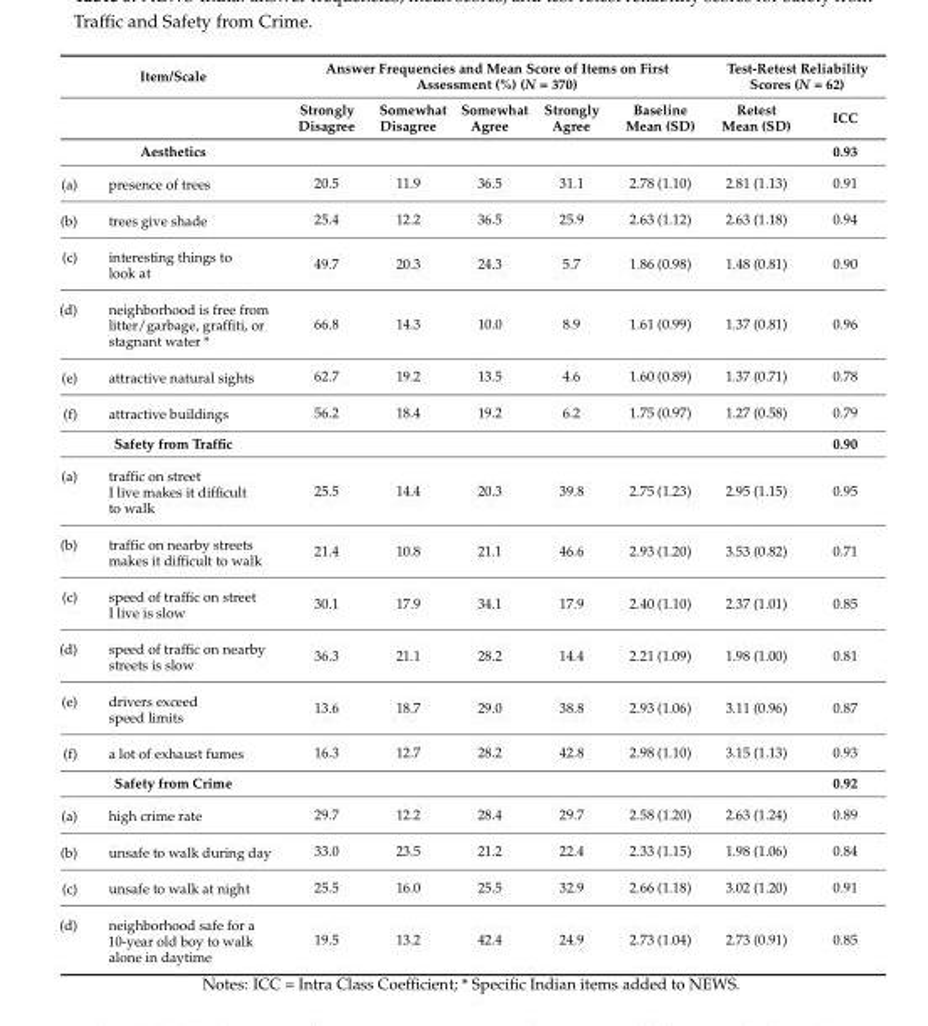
<table><thead><tr><td rowspan="2">Item/Scale</td><td colspan="5">Answer Frequencies and Mean Score of Items on First Assessment (%) (N = 370)</td><td colspan="2">Test-Retest Reliability Scores (N = 62)</td></tr><tr><td>Strongly Disagree</td><td>Somewhat Disagree</td><td>Somewhat Agree</td><td>Strongly Agree</td><td>Baseline Mean (SD)</td><td>Retest Mean (SD)</td><td>ICC</td></tr></thead><tbody><tr><td>Aesthetics</td><td></td><td></td><td></td><td></td><td></td><td></td><td>0.93</td></tr><tr><td>(a) presence of trees</td><td>20.5</td><td>11.9</td><td>36.5</td><td>31.1</td><td>2.78 (1.10)</td><td>2.81 (1.13)</td><td>0.91</td></tr><tr><td>(b) trees give shade</td><td>25.4</td><td>12.2</td><td>36.5</td><td>25.9</td><td>2.63 (1.12)</td><td>2.63 (1.18)</td><td>0.94</td></tr><tr><td>(c) interesting things to look at</td><td>49.7</td><td>20.3</td><td>24.3</td><td>5.7</td><td>1.86 (0.98)</td><td>1.48 (0.81)</td><td>0.90</td></tr><tr><td>(d) neighborhood is free from litter/garbage, graffiti, or stagnant water *</td><td>66.8</td><td>14.3</td><td>10.0</td><td>8.9</td><td>1.61 (0.99)</td><td>1.37 (0.81)</td><td>0.96</td></tr><tr><td>(e) attractive natural sights</td><td>62.7</td><td>19.2</td><td>13.5</td><td>4.6</td><td>1.60 (0.89)</td><td>1.37 (0.71)</td><td>0.78</td></tr><tr><td>(f) attractive buildings</td><td>56.2</td><td>18.4</td><td>19.2</td><td>6.2</td><td>1.75 (0.97)</td><td>1.27 (0.58)</td><td>0.79</td></tr><tr><td>Safety from Traffic</td><td></td><td></td><td></td><td></td><td></td><td></td><td>0.90</td></tr><tr><td>(a) traffic on street I live makes it difficult to walk</td><td>25.5</td><td>14.4</td><td>20.3</td><td>39.8</td><td>2.75 (1.23)</td><td>2.95 (1.15)</td><td>0.95</td></tr><tr><td>(b) traffic on nearby streets makes it difficult to walk</td><td>21.4</td><td>10.8</td><td>21.1</td><td>46.6</td><td>2.93 (1.20)</td><td>3.53 (0.82)</td><td>0.71</td></tr><tr><td>(c) speed of traffic on street I live is slow</td><td>30.1</td><td>17.9</td><td>34.1</td><td>17.9</td><td>2.40 (1.10)</td><td>2.37 (1.01)</td><td>0.85</td></tr><tr><td>(d) speed of traffic on nearby streets is slow</td><td>36.3</td><td>21.1</td><td>28.2</td><td>14.4</td><td>2.21 (1.09)</td><td>1.98 (1.00)</td><td>0.81</td></tr><tr><td>(e) drivers exceed speed limits</td><td>13.6</td><td>18.7</td><td>29.0</td><td>38.8</td><td>2.93 (1.06)</td><td>3.11 (0.96)</td><td>0.87</td></tr><tr><td>(f) a lot of exhaust fumes</td><td>16.3</td><td>12.7</td><td>28.2</td><td>42.8</td><td>2.98 (1.10)</td><td>3.15 (1.13)</td><td>0.93</td></tr><tr><td>Safety from Crime</td><td></td><td></td><td></td><td></td><td></td><td></td><td>0.92</td></tr><tr><td>(a) high crime rate</td><td>29.7</td><td>12.2</td><td>28.4</td><td>29.7</td><td>2.58 (1.20)</td><td>2.63 (1.24)</td><td>0.89</td></tr><tr><td>(b) unsafe to walk during day</td><td>33.0</td><td>23.5</td><td>21.2</td><td>22.4</td><td>2.33 (1.15)</td><td>1.98 (1.06)</td><td>0.84</td></tr><tr><td>(c) unsafe to walk at night</td><td>25.5</td><td>16.0</td><td>25.5</td><td>32.9</td><td>2.66 (1.18)</td><td>3.02 (1.20)</td><td>0.91</td></tr><tr><td>(d) neighborhood safe for a 10-year old boy to walk alone in daytime</td><td>19.5</td><td>13.2</td><td>42.4</td><td>24.9</td><td>2.73 (1.04)</td><td>2.73 (0.91)</td><td>0.85</td></tr></tbody></table>